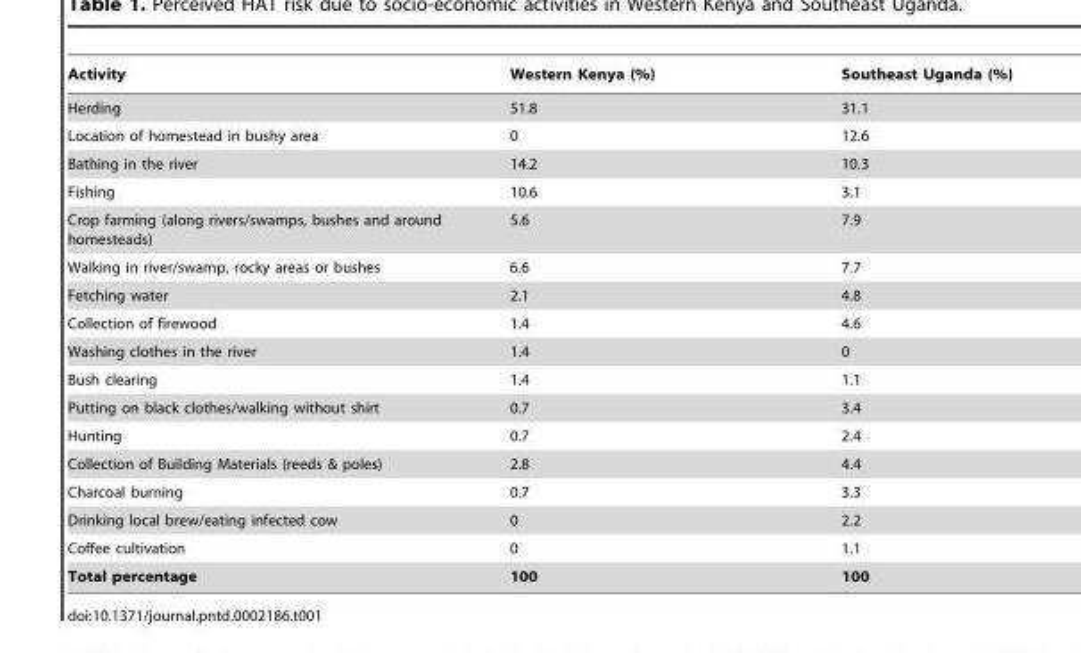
<table><thead><tr><td>Activity</td><td>Western Kenya (%)</td><td>Southeast Uganda (%)</td></tr></thead><tbody><tr><td>Herding</td><td>51.8</td><td>31.1</td></tr><tr><td>Location of homestead in bushy area</td><td>0</td><td>12.6</td></tr><tr><td>Bathing in the river</td><td>14.2</td><td>10.3</td></tr><tr><td>Fishing</td><td>10.6</td><td>3.1</td></tr><tr><td>Crop farming (along rivers/swamps, bushes and around homesteads)</td><td>5.6</td><td>7.9</td></tr><tr><td>Walking in river/swamp, rocky areas or bushes</td><td>6.6</td><td>7.7</td></tr><tr><td>Fetching water</td><td>2.1</td><td>4.8</td></tr><tr><td>Collection of firewood</td><td>1.4</td><td>4.6</td></tr><tr><td>Washing clothes in the river</td><td>1.4</td><td>0</td></tr><tr><td>Bush clearing</td><td>1.4</td><td>1.1</td></tr><tr><td>Putting on black clothes/walking without shirt</td><td>0.7</td><td>3.4</td></tr><tr><td>Hunting</td><td>0.7</td><td>2.4</td></tr><tr><td>Collection of Building Materials (reeds &amp; poles)</td><td>2.8</td><td>4.4</td></tr><tr><td>Charcoal burning</td><td>0.7</td><td>3.3</td></tr><tr><td>Drinking local brew/eating infected cow</td><td>0</td><td>2.2</td></tr><tr><td>Coffee cultivation</td><td>0</td><td>1.1</td></tr><tr><td>Total percentage</td><td>100</td><td>100</td></tr></tbody></table>